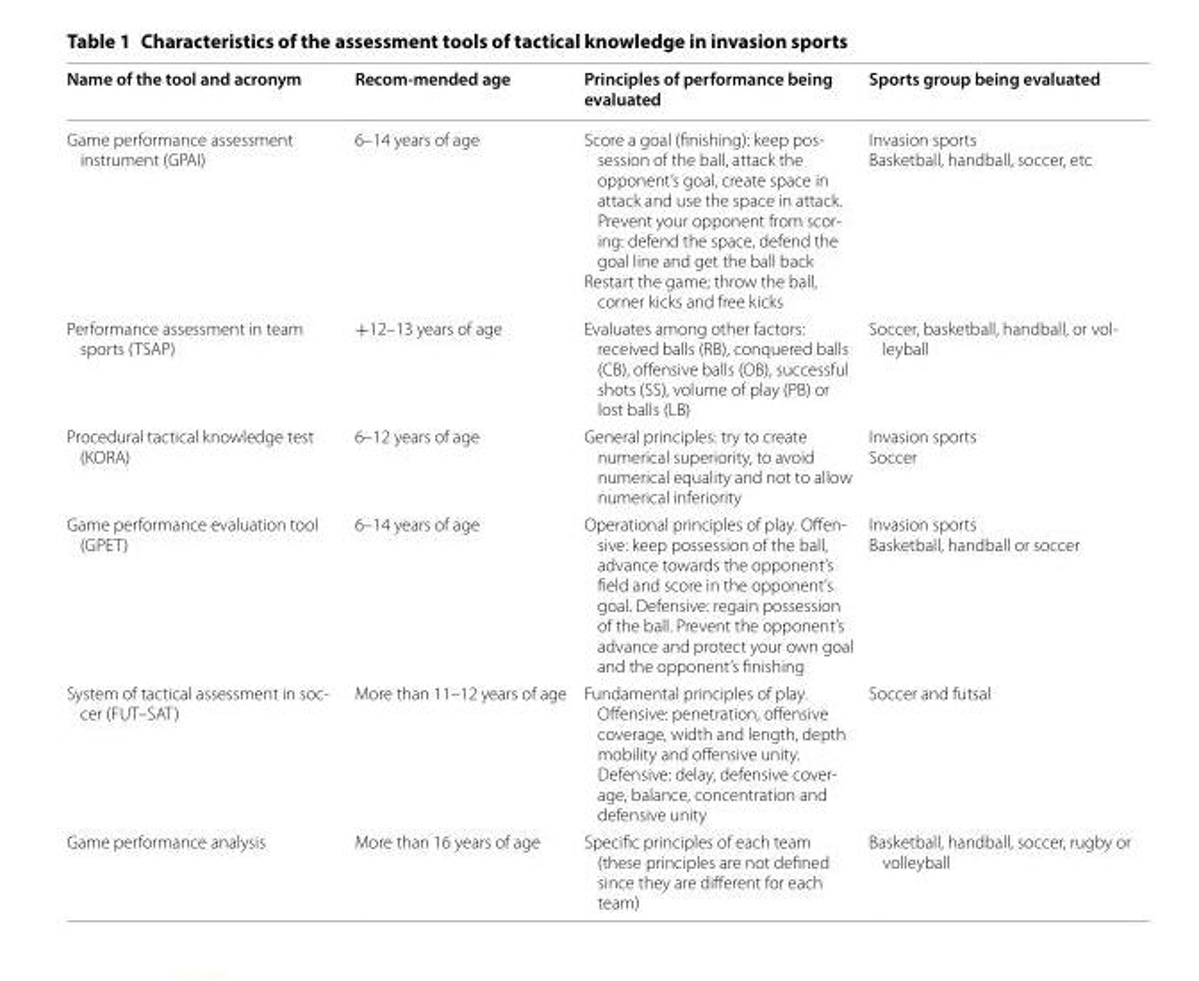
<table><thead><tr><td>Name of the tool and acronym</td><td>Recom-mended age</td><td>Principles of performance being evaluated</td><td>Sports group being evaluated</td></tr></thead><tbody><tr><td>Game performance assessment instrument (GPAI)</td><td>6–14 years of age</td><td>Score a goal (finishing): keep pos‑ session of the ball, attack the opponent’s goal, create space in attack and use the space in attack. Prevent your opponent from scor‑ ing: defend the space, defend the goal line and get the ball back Restart the game; throw the ball, corner kicks and free kicks</td><td>Invasion sports Basketball, handball, soccer, etc</td></tr><tr><td>Performance assessment in team sports (TSAP)</td><td>+12–13 years of age</td><td>Evaluates among other factors: received balls (RB), conquered balls (CB), offensive balls (OB), successful shots (SS), volume of play (PB) or lost balls (LB)</td><td>Soccer, basketball, handball, or vol‑ leyball</td></tr><tr><td>Procedural tactical knowledge test (KORA)</td><td>6–12 years of age</td><td>General principles: try to create numerical superiority, to avoid numerical equality and not to allow numerical inferiority</td><td>Invasion sports Soccer</td></tr><tr><td>Game performance evaluation tool (GPET)</td><td>6–14 years of age</td><td>Operational principles of play. Offen‑ sive: keep possession of the ball, advance towards the opponent’s field and score in the opponent’s goal. Defensive: regain possession of the ball. Prevent the opponent’s advance and protect your own goal and the opponent’s finishing</td><td>Invasion sports Basketball, handball or soccer</td></tr><tr><td>System of tactical assessment in soc‑ cer (FUT–SAT)</td><td>More than 11–12 years of age</td><td>Fundamental principles of play. Offensive: penetration, offensive coverage, width and length, depth mobility and offensive unity. Defensive: delay, defensive cover‑ age, balance, concentration and defensive unity</td><td>Soccer and futsal</td></tr><tr><td>Game performance analysis</td><td>More than 16 years of age</td><td>Specific principles of each team (these principles are not defined since they are different for each team)</td><td>Basketball, handball, soccer, rugby or volleyball</td></tr></tbody></table>